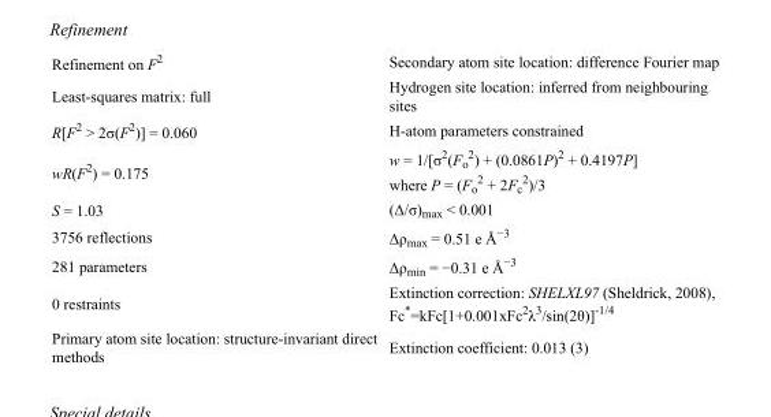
<table><tbody><tr><td>Refinement on F<sup>2</sup></td><td>Secondary atom site location: difference Fourier map</td></tr><tr><td>Least-squares matrix: full</td><td>Hydrogen site location: inferred from neighbouring sites</td></tr><tr><td>R[F<sup>2</sup> &gt; 2σ(F<sup>2</sup>)] = 0.060</td><td>H-atom parameters constrained</td></tr><tr><td>wR(F<sup>2</sup>) = 0.175</td><td>w = 1/[σ<sup>2</sup>(F<sub>o</sub> <sup>2</sup>) + (0.0861P)<sup>2</sup> + 0.4197P] where P = (F<sub>o</sub> <sup>2</sup> + 2F<sub>c</sub> <sup>2</sup>)/3</td></tr><tr><td>S = 1.03</td><td>(Δ/σ)<sub>max</sub> &lt; 0.001</td></tr><tr><td>3756 reflections</td><td>Δρ<sub>max</sub> = 0.51 e Å<sup>−3</sup></td></tr><tr><td>281 parameters</td><td>Δρ<sub>min</sub> = −0.31 e Å<sup>−3</sup></td></tr><tr><td>0 restraints</td><td>Extinction correction: SHELXL97 (Sheldrick, 2008), Fc*=kFc[1+0.001xFc<sup>2</sup>λ<sup>3</sup>/sin(2θ)]<sup>-1/4</sup></td></tr><tr><td>Primary atom site location: structure-invariant direct methods</td><td>Extinction coefficient: 0.013 (3)</td></tr></tbody></table>